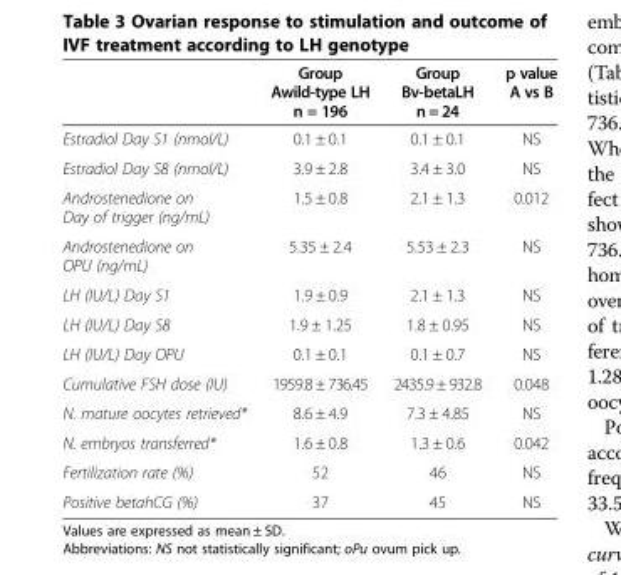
<table><thead><tr><td></td><td>Group Awild-type LH n = 196</td><td>Group Bv-betaLH n = 24</td><td>p value A vs B</td></tr></thead><tbody><tr><td>Estradiol Day S1 (nmol/L)</td><td>0.1 ± 0.1</td><td>0.1 ± 0.1</td><td>NS</td></tr><tr><td>Estradiol Day S8 (nmol/L)</td><td>3.9 ± 2.8</td><td>3.4 ± 3.0</td><td>NS</td></tr><tr><td>Androstenedione on Day of trigger (ng/mL)</td><td>1.5 ± 0.8</td><td>2.1 ± 1.3</td><td>0.012</td></tr><tr><td>Androstenedione on OPU (ng/mL)</td><td>5.35 ± 2.4</td><td>5.53 ± 2.3</td><td>NS</td></tr><tr><td>LH (IU/L) Day S1</td><td>1.9 ± 0.9</td><td>2.1 ± 1.3</td><td>NS</td></tr><tr><td>LH (IU/L) Day S8</td><td>1.9 ± 1.25</td><td>1.8 ± 0.95</td><td>NS</td></tr><tr><td>LH (IU/L) Day OPU</td><td>0.1 ± 0.1</td><td>0.1 ± 0.7</td><td>NS</td></tr><tr><td>Cumulative FSH dose (IU)</td><td>1959.8 ± 736.45</td><td>2435.9 ± 932.8</td><td>0.048</td></tr><tr><td>N. mature oocytes retrieved*</td><td>8.6 ± 4.9</td><td>7.3 ± 4.85</td><td>NS</td></tr><tr><td>N. embryos transferred*</td><td>1.6 ± 0.8</td><td>1.3 ± 0.6</td><td>0.042</td></tr><tr><td>Fertilization rate (%)</td><td>52</td><td>46</td><td>NS</td></tr><tr><td>Positive betahCG (%)</td><td>37</td><td>45</td><td>NS</td></tr></tbody></table>